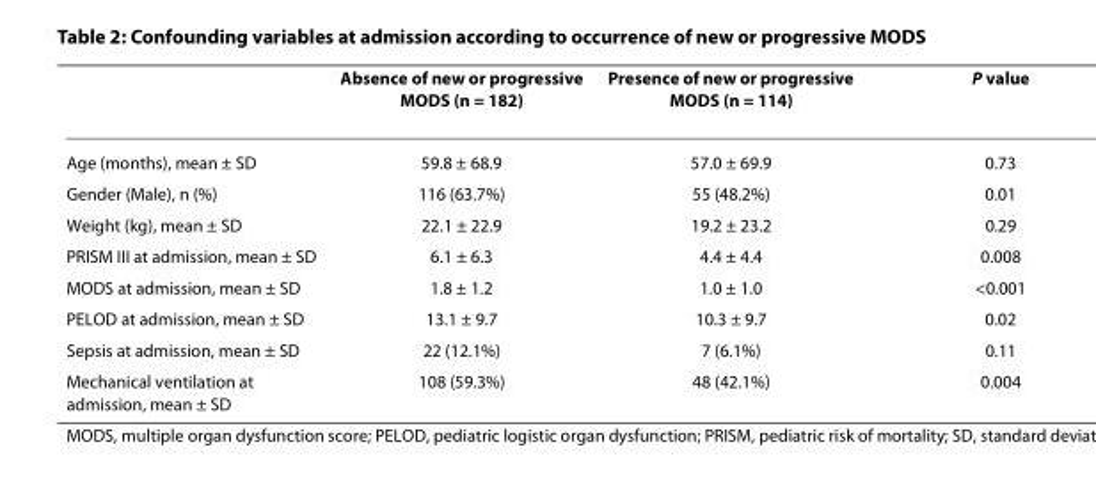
<table><thead><tr><td></td><td>Absence of new or progressive MODS (n = 182)</td><td>Presence of new or progressive MODS (n = 114)</td><td>P value</td></tr></thead><tbody><tr><td>Age (months), mean ± SD</td><td>59.8 ± 68.9</td><td>57.0 ± 69.9</td><td>0.73</td></tr><tr><td>Gender (Male), n (%)</td><td>116 (63.7%)</td><td>55 (48.2%)</td><td>0.01</td></tr><tr><td>Weight (kg), mean ± SD</td><td>22.1 ± 22.9</td><td>19.2 ± 23.2</td><td>0.29</td></tr><tr><td>PRISM III at admission, mean ± SD</td><td>6.1 ± 6.3</td><td>4.4 ± 4.4</td><td>0.008</td></tr><tr><td>MODS at admission, mean ± SD</td><td>1.8 ± 1.2</td><td>1.0 ± 1.0</td><td>&lt;0.001</td></tr><tr><td>PELOD at admission, mean ± SD</td><td>13.1 ± 9.7</td><td>10.3 ± 9.7</td><td>0.02</td></tr><tr><td>Sepsis at admission, mean ± SD</td><td>22 (12.1%)</td><td>7 (6.1%)</td><td>0.11</td></tr><tr><td>Mechanical ventilation at admission, mean ± SD</td><td>108 (59.3%)</td><td>48 (42.1%)</td><td>0.004</td></tr></tbody></table>